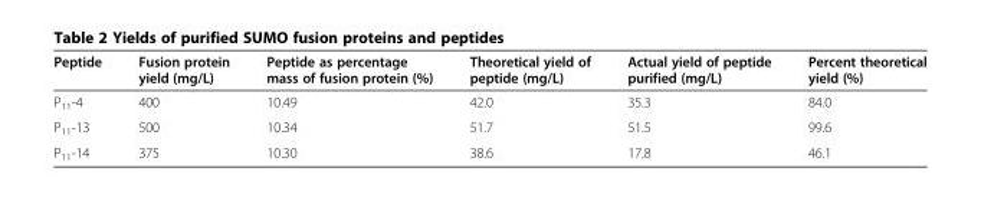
<table><thead><tr><td>Peptide</td><td>Fusion protein yield (mg/L)</td><td>Peptide as percentage mass of fusion protein (%)</td><td>Theoretical yield of peptide (mg/L)</td><td>Actual yield of peptide purified (mg/L)</td><td>Percent theoretical yield (%)</td></tr></thead><tbody><tr><td>P<sub>11</sub>-4</td><td>400</td><td>10.49</td><td>42.0</td><td>35.3</td><td>84.0</td></tr><tr><td>P<sub>11</sub>-13</td><td>500</td><td>10.34</td><td>51.7</td><td>51.5</td><td>99.6</td></tr><tr><td>P<sub>11</sub>-14</td><td>375</td><td>10.30</td><td>38.6</td><td>17.8</td><td>46.1</td></tr></tbody></table>